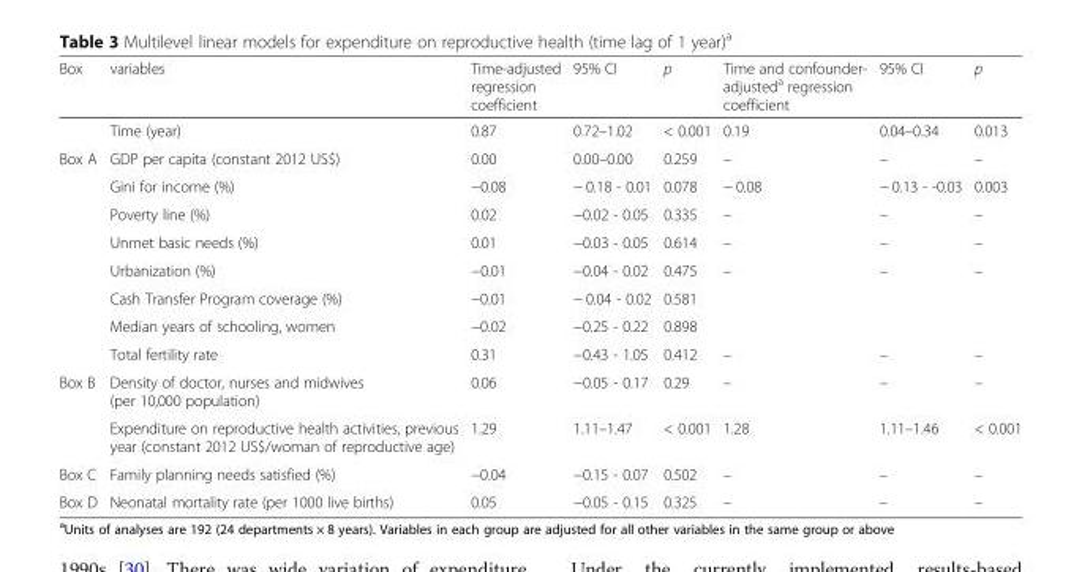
<table><thead><tr><td>Box</td><td>variables</td><td>Time-adjusted regression coefficient</td><td>95% CI</td><td>p</td><td>Time and confounder- adjusted<sup>a</sup> regression coefficient</td><td>95% CI</td><td>p</td></tr></thead><tbody><tr><td></td><td>Time (year)</td><td>0.87</td><td>0.72–1.02</td><td>&lt; 0.001</td><td>0.19</td><td>0.04–0.34</td><td>0.013</td></tr><tr><td rowspan="8">Box A</td><td>GDP per capita (constant 2012 US$)</td><td>0.00</td><td>0.00–0.00</td><td>0.259</td><td>–</td><td>–</td><td>–</td></tr><tr><td>Gini for income (%)</td><td>−0.08</td><td>− 0.18 - 0.01</td><td>0.078</td><td>− 0.08</td><td>− 0.13 - -0.03</td><td>0.003</td></tr><tr><td>Poverty line (%)</td><td>0.02</td><td>−0.02 - 0.05</td><td>0.335</td><td>–</td><td>–</td><td>–</td></tr><tr><td>Unmet basic needs (%)</td><td>0.01</td><td>−0.03 - 0.05</td><td>0.614</td><td>–</td><td>–</td><td>–</td></tr><tr><td>Urbanization (%)</td><td>−0.01</td><td>−0.04 - 0.02</td><td>0.475</td><td>–</td><td>–</td><td>–</td></tr><tr><td>Cash Transfer Program coverage (%)</td><td>−0.01</td><td>− 0.04 - 0.02</td><td>0.581</td><td></td><td></td><td></td></tr><tr><td>Median years of schooling, women</td><td>−0.02</td><td>−0.25 - 0.22</td><td>0.898</td><td></td><td></td><td></td></tr><tr><td>Total fertility rate</td><td>0.31</td><td>−0.43 - 1.05</td><td>0.412</td><td>–</td><td>–</td><td>–</td></tr><tr><td rowspan="2">Box B</td><td>Density of doctor, nurses and midwives (per 10,000 population)</td><td>0.06</td><td>−0.05 - 0.17</td><td>0.29</td><td>–</td><td>–</td><td>–</td></tr><tr><td>Expenditure on reproductive health activities, previous year (constant 2012 US$/woman of reproductive age)</td><td>1.29</td><td>1.11–1.47</td><td>&lt; 0.001</td><td>1.28</td><td>1.11–1.46</td><td>&lt; 0.001</td></tr><tr><td>Box C</td><td>Family planning needs satisfied (%)</td><td>−0.04</td><td>−0.15 - 0.07</td><td>0.502</td><td>–</td><td>–</td><td>–</td></tr><tr><td>Box D</td><td>Neonatal mortality rate (per 1000 live births)</td><td>0.05</td><td>−0.05 - 0.15</td><td>0.325</td><td>–</td><td>–</td><td>–</td></tr></tbody></table>